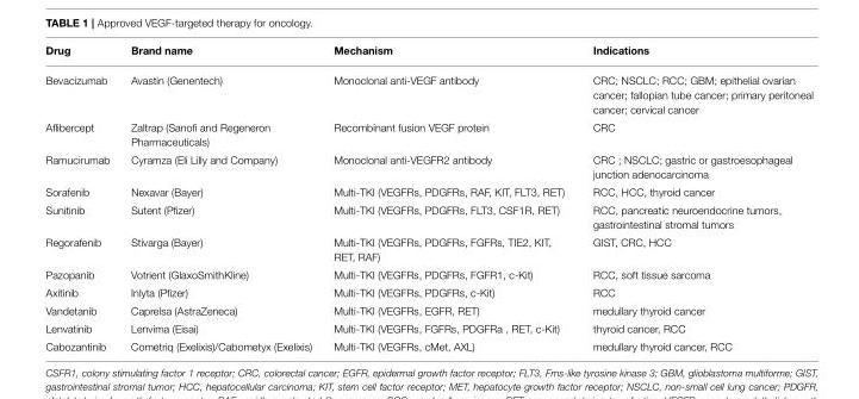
<table><thead><tr><td>Drug</td><td>Brand name</td><td>Mechanism</td><td>Indications</td></tr></thead><tbody><tr><td>Bevacizumab</td><td>Avastin (Genentech)</td><td>Monoclonal anti-VEGF antibody</td><td>CRC; NSCLC; RCC; GBM; epithelial ovarian cancer; fallopian tube cancer; primary peritoneal cancer; cervical cancer</td></tr><tr><td>Aflibercept</td><td>Zaltrap (Sanofi and Regeneron Pharmaceuticals)</td><td>Recombinant fusion VEGF protein</td><td>CRC</td></tr><tr><td>Ramucirumab</td><td>Cyramza (Eli Lilly and Company)</td><td>Monoclonal anti-VEGFR2 antibody</td><td>CRC ; NSCLC; gastric or gastroesophageal junction adenocarcinoma</td></tr><tr><td>Sorafenib</td><td>Nexavar (Bayer)</td><td>Multi-TKI (VEGFRs, PDGFRs, RAF, KIT, FLT3, RET)</td><td>RCC, HCC, thyroid cancer</td></tr><tr><td>Sunitinib</td><td>Sutent (Pfizer)</td><td>Multi-TKI (VEGFRs, PDGFRs, FLT3, CSF1R, RET)</td><td>RCC, pancreatic neuroendocrine tumors, gastrointestinal stromal tumors</td></tr><tr><td>Regorafenib</td><td>Stivarga (Bayer)</td><td>Multi-TKI (VEGFRs, PDGFRs, FGFRs, TIE2, KIT, RET, RAF)</td><td>GIST, CRC, HCC</td></tr><tr><td>Pazopanib</td><td>Votrient (GlaxoSmithKline)</td><td>Multi-TKI (VEGFRs, PDGFRs, FGFR1, c-Kit)</td><td>RCC, soft tissue sarcoma</td></tr><tr><td>Axitinib</td><td>Inlyta (Pfizer)</td><td>Multi-TKI (VEGFRs, PDGFRs, c-Kit)</td><td>RCC</td></tr><tr><td>Vandetanib</td><td>Caprelsa (AstraZeneca)</td><td>Multi-TKI (VEGFRs, EGFR, RET)</td><td>medullary thyroid cancer</td></tr><tr><td>Lenvatinib</td><td>Lenvima (Eisai)</td><td>Multi-TKI (VEGFRs, FGFRs, PDGFRa , RET, c-Kit)</td><td>thyroid cancer, RCC</td></tr><tr><td>Cabozantinib</td><td>Cometriq (Exelixis)/Cabometyx (Exelixis)</td><td>Multi-TKI (VEGFRs, cMet, AXL)</td><td>medullary thyroid cancer, RCC</td></tr></tbody></table>